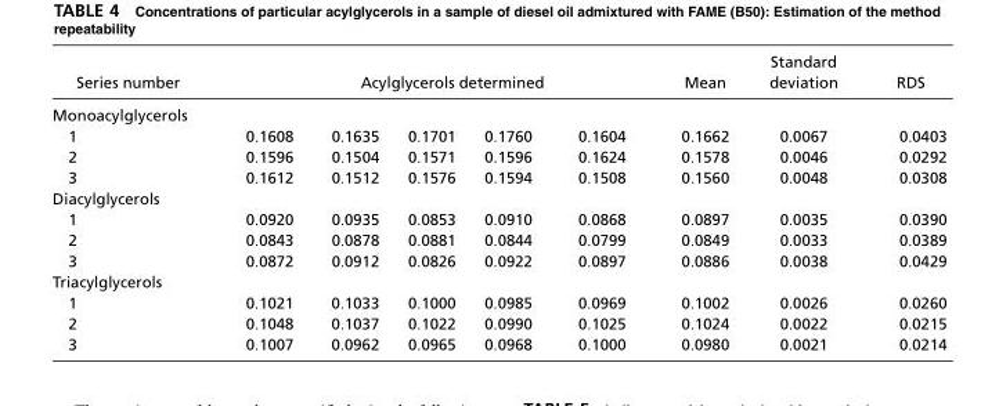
<table><thead><tr><td>Series number</td><td colspan="5">Acylglycerols determined</td><td>Mean</td><td>Standard deviation</td><td>RDS</td></tr><tr><td colspan="9">Monoacylglycerols</td></tr><tr><td>1</td><td>0.1608</td><td>0.1635</td><td>0.1701</td><td>0.1760</td><td>0.1604</td><td>0.1662</td><td>0.0067</td><td>0.0403</td></tr></thead><tbody><tr><td>2</td><td>0.1596</td><td>0.1504</td><td>0.1571</td><td>0.1596</td><td>0.1624</td><td>0.1578</td><td>0.0046</td><td>0.0292</td></tr><tr><td>3</td><td>0.1612</td><td>0.1512</td><td>0.1576</td><td>0.1594</td><td>0.1508</td><td>0.1560</td><td>0.0048</td><td>0.0308</td></tr><tr><td colspan="9">Diacylglycerols</td></tr><tr><td>1</td><td>0.0920</td><td>0.0935</td><td>0.0853</td><td>0.0910</td><td>0.0868</td><td>0.0897</td><td>0.0035</td><td>0.0390</td></tr><tr><td>2</td><td>0.0843</td><td>0.0878</td><td>0.0881</td><td>0.0844</td><td>0.0799</td><td>0.0849</td><td>0.0033</td><td>0.0389</td></tr><tr><td>3</td><td>0.0872</td><td>0.0912</td><td>0.0826</td><td>0.0922</td><td>0.0897</td><td>0.0886</td><td>0.0038</td><td>0.0429</td></tr><tr><td colspan="9">Triacylglycerols</td></tr><tr><td>1</td><td>0.1021</td><td>0.1033</td><td>0.1000</td><td>0.0985</td><td>0.0969</td><td>0.1002</td><td>0.0026</td><td>0.0260</td></tr><tr><td>2</td><td>0.1048</td><td>0.1037</td><td>0.1022</td><td>0.0990</td><td>0.1025</td><td>0.1024</td><td>0.0022</td><td>0.0215</td></tr><tr><td>3</td><td>0.1007</td><td>0.0962</td><td>0.0965</td><td>0.0968</td><td>0.1000</td><td>0.0980</td><td>0.0021</td><td>0.0214</td></tr></tbody></table>